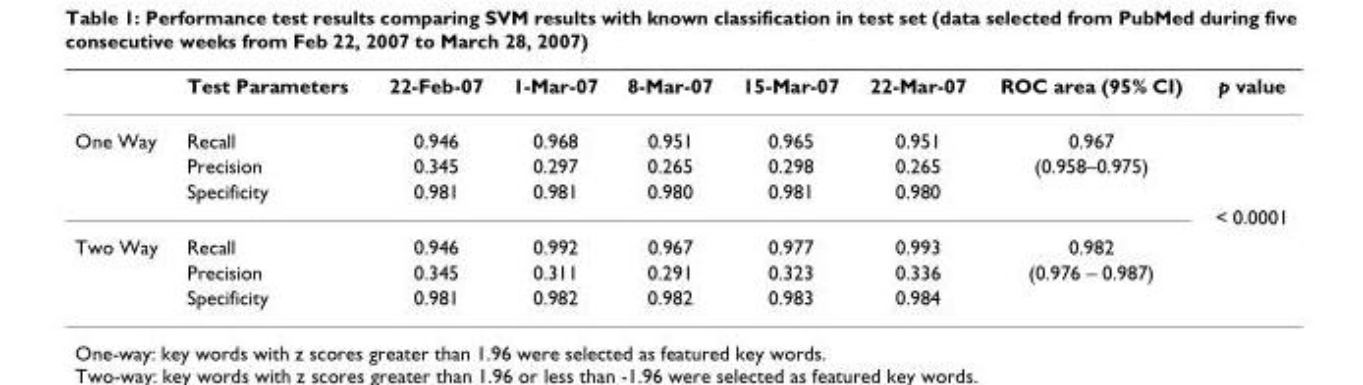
<table><thead><tr><td></td><td>Test Parameters</td><td>22-Feb-07</td><td>1-Mar-07</td><td>8-Mar-07</td><td>15-Mar-07</td><td>22-Mar-07</td><td>ROC area (95% CI)</td><td>p value</td></tr></thead><tbody><tr><td rowspan="3">One Way</td><td>Recall</td><td>0.946</td><td>0.968</td><td>0.951</td><td>0.965</td><td>0.951</td><td>0.967</td><td></td></tr><tr><td>Precision</td><td>0.345</td><td>0.297</td><td>0.265</td><td>0.298</td><td>0.265</td><td>(0.958–0.975)</td><td></td></tr><tr><td>Specificity</td><td>0.981</td><td>0.981</td><td>0.980</td><td>0.981</td><td>0.980</td><td></td><td></td></tr><tr><td colspan="8"></td><td>&lt; 0.0001</td></tr><tr><td rowspan="3">Two Way</td><td>Recall</td><td>0.946</td><td>0.992</td><td>0.967</td><td>0.977</td><td>0.993</td><td>0.982</td><td></td></tr><tr><td>Precision</td><td>0.345</td><td>0.311</td><td>0.291</td><td>0.323</td><td>0.336</td><td>(0.976 – 0.987)</td><td></td></tr><tr><td>Specificity</td><td>0.981</td><td>0.982</td><td>0.982</td><td>0.983</td><td>0.984</td><td></td><td></td></tr></tbody></table>